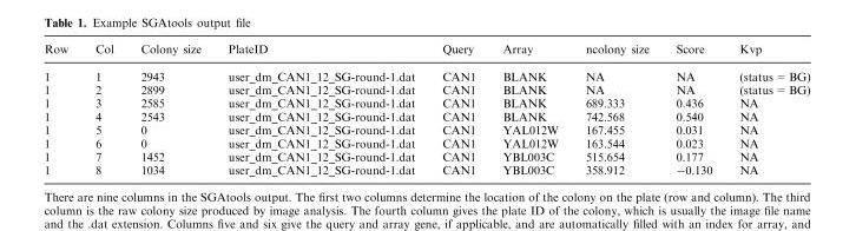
<table><thead><tr><td>Row</td><td>Col</td><td>Colony size</td><td>PlateID</td><td>Query</td><td>Array</td><td>ncolony size</td><td>Score</td><td>Kvp</td></tr></thead><tbody><tr><td>1</td><td>1</td><td>2943</td><td>user_dm_CAN1_12_SG-round-1.dat</td><td>CAN1</td><td>BLANK</td><td>NA</td><td>NA</td><td>(status = BG)</td></tr><tr><td>1</td><td>2</td><td>2899</td><td>user_dm_CAN1_12_SG-round-1.dat</td><td>CAN1</td><td>BLANK</td><td>NA</td><td>NA</td><td>(status = BG)</td></tr><tr><td>1</td><td>3</td><td>2585</td><td>user_dm_CAN1_12_SG-round-1.dat</td><td>CAN1</td><td>BLANK</td><td>689.333</td><td>0.436</td><td>NA</td></tr><tr><td>1</td><td>4</td><td>2543</td><td>user_dm_CAN1_12_SG-round-1.dat</td><td>CAN1</td><td>BLANK</td><td>742.568</td><td>0.540</td><td>NA</td></tr><tr><td>1</td><td>5</td><td>0</td><td>user_dm_CAN1_12_SG-round-1.dat</td><td>CAN1</td><td>YAL012W</td><td>167.455</td><td>0.031</td><td>NA</td></tr><tr><td>1</td><td>6</td><td>0</td><td>user_dm_CAN1_12_SG-round-1.dat</td><td>CAN1</td><td>YAL012W</td><td>163.544</td><td>0.023</td><td>NA</td></tr><tr><td>1</td><td>7</td><td>1452</td><td>user_dm_CAN1_12_SG-round-1.dat</td><td>CAN1</td><td>YBL003C</td><td>515.654</td><td>0.177</td><td>NA</td></tr><tr><td>1</td><td>8</td><td>1034</td><td>user_dm_CAN1_12_SG-round-1.dat</td><td>CAN1</td><td>YBL003C</td><td>358.912</td><td>−0.130</td><td>NA</td></tr></tbody></table>